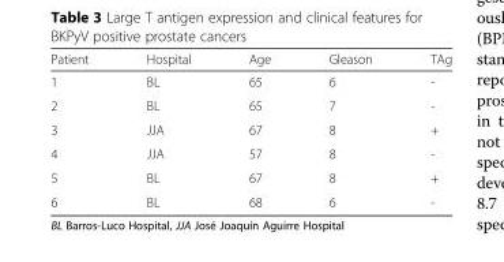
<table><thead><tr><td>Patient</td><td>Hospital</td><td>Age</td><td>Gleason</td><td>TAg</td></tr></thead><tbody><tr><td>1</td><td>BL</td><td>65</td><td>6</td><td>-</td></tr><tr><td>2</td><td>BL</td><td>65</td><td>7</td><td>-</td></tr><tr><td>3</td><td>JJA</td><td>67</td><td>8</td><td>+</td></tr><tr><td>4</td><td>JJA</td><td>57</td><td>8</td><td>-</td></tr><tr><td>5</td><td>BL</td><td>67</td><td>8</td><td>+</td></tr><tr><td>6</td><td>BL</td><td>68</td><td>6</td><td>-</td></tr></tbody></table>